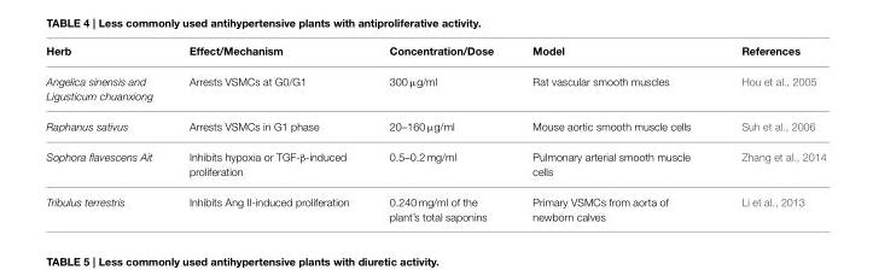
<table><thead><tr><td>Herb</td><td>Effect/Mechanism</td><td>Concentration/Dose</td><td>Model</td><td>References</td></tr></thead><tbody><tr><td>Angelica sinensis and Ligusticum chuanxiong</td><td>Arrests VSMCs at G0/G1</td><td>300 µg/ml</td><td>Rat vascular smooth muscles</td><td>Hou et al., 2005</td></tr><tr><td>Raphanus sativus</td><td>Arrests VSMCs in G1 phase</td><td>20–160 µg/ml</td><td>Mouse aortic smooth muscle cells</td><td>Suh et al., 2006</td></tr><tr><td>Sophora flavescens Ait</td><td>Inhibits hypoxia or TGF-β-induced proliferation</td><td>0.5–0.2 mg/ml</td><td>Pulmonary arterial smooth muscle cells</td><td>Zhang et al., 2014</td></tr><tr><td>Tribulus terrestris</td><td>Inhibits Ang II-induced proliferation</td><td>0.240 mg/ml of the plant’s total saponins</td><td>Primary VSMCs from aorta of newborn calves</td><td>Li et al., 2013</td></tr></tbody></table>